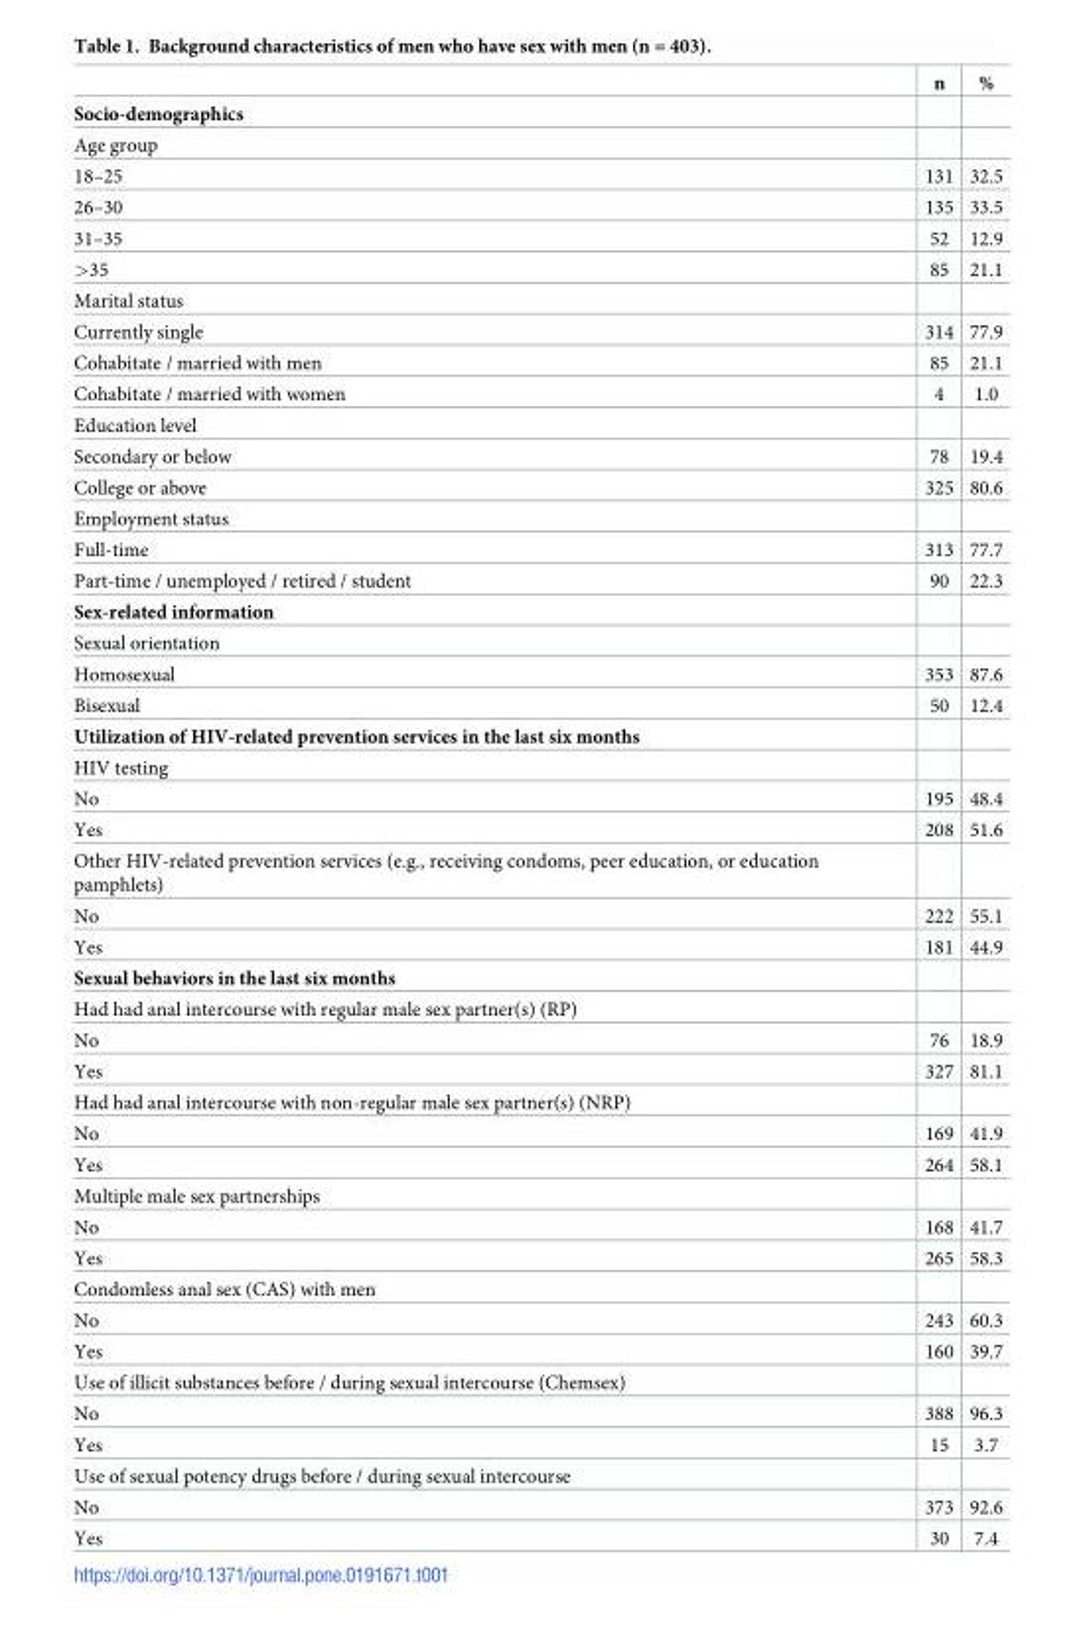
<table><thead><tr><td></td><td>n</td><td>%</td></tr></thead><tbody><tr><td colspan="3">Socio-demographics</td></tr><tr><td colspan="3">Age group</td></tr><tr><td>18–25</td><td>131</td><td>32.5</td></tr><tr><td>26–30</td><td>135</td><td>33.5</td></tr><tr><td>31–35</td><td>52</td><td>12.9</td></tr><tr><td>&gt;35</td><td>85</td><td>21.1</td></tr><tr><td colspan="3">Marital status</td></tr><tr><td>Currently single</td><td>314</td><td>77.9</td></tr><tr><td>Cohabitate / married with men</td><td>85</td><td>21.1</td></tr><tr><td>Cohabitate / married with women</td><td>4</td><td>1.0</td></tr><tr><td colspan="3">Education level</td></tr><tr><td>Secondary or below</td><td>78</td><td>19.4</td></tr><tr><td>College or above</td><td>325</td><td>80.6</td></tr><tr><td colspan="3">Employment status</td></tr><tr><td>Full-time</td><td>313</td><td>77.7</td></tr><tr><td>Part-time / unemployed / retired / student</td><td>90</td><td>22.3</td></tr><tr><td colspan="3">Sex-related information</td></tr><tr><td colspan="3">Sexual orientation</td></tr><tr><td>Homosexual</td><td>353</td><td>87.6</td></tr><tr><td>Bisexual</td><td>50</td><td>12.4</td></tr><tr><td colspan="3">Utilization of HIV-related prevention services in the last six months</td></tr><tr><td colspan="3">HIV testing</td></tr><tr><td>No</td><td>195</td><td>48.4</td></tr><tr><td>Yes</td><td>208</td><td>51.6</td></tr><tr><td colspan="3">Other HIV-related prevention services (e.g., receiving condoms, peer education, or education pamphlets)</td></tr><tr><td>No</td><td>222</td><td>55.1</td></tr><tr><td>Yes</td><td>181</td><td>44.9</td></tr><tr><td colspan="3">Sexual behaviors in the last six months</td></tr><tr><td colspan="3">Had had anal intercourse with regular male sex partner(s) (RP)</td></tr><tr><td>No</td><td>76</td><td>18.9</td></tr><tr><td>Yes</td><td>327</td><td>81.1</td></tr><tr><td colspan="3">Had had anal intercourse with non-regular male sex partner(s) (NRP)</td></tr><tr><td>No</td><td>169</td><td>41.9</td></tr><tr><td>Yes</td><td>264</td><td>58.1</td></tr><tr><td colspan="3">Multiple male sex partnerships</td></tr><tr><td>No</td><td>168</td><td>41.7</td></tr><tr><td>Yes</td><td>265</td><td>58.3</td></tr><tr><td colspan="3">Condomless anal sex (CAS) with men</td></tr><tr><td>No</td><td>243</td><td>60.3</td></tr><tr><td>Yes</td><td>160</td><td>39.7</td></tr><tr><td colspan="3">Use of illicit substances before / during sexual intercourse (Chemsex)</td></tr><tr><td>No</td><td>388</td><td>96.3</td></tr><tr><td>Yes</td><td>15</td><td>3.7</td></tr><tr><td colspan="3">Use of sexual potency drugs before / during sexual intercourse</td></tr><tr><td>No</td><td>373</td><td>92.6</td></tr><tr><td>Yes</td><td>30</td><td>7.4</td></tr></tbody></table>